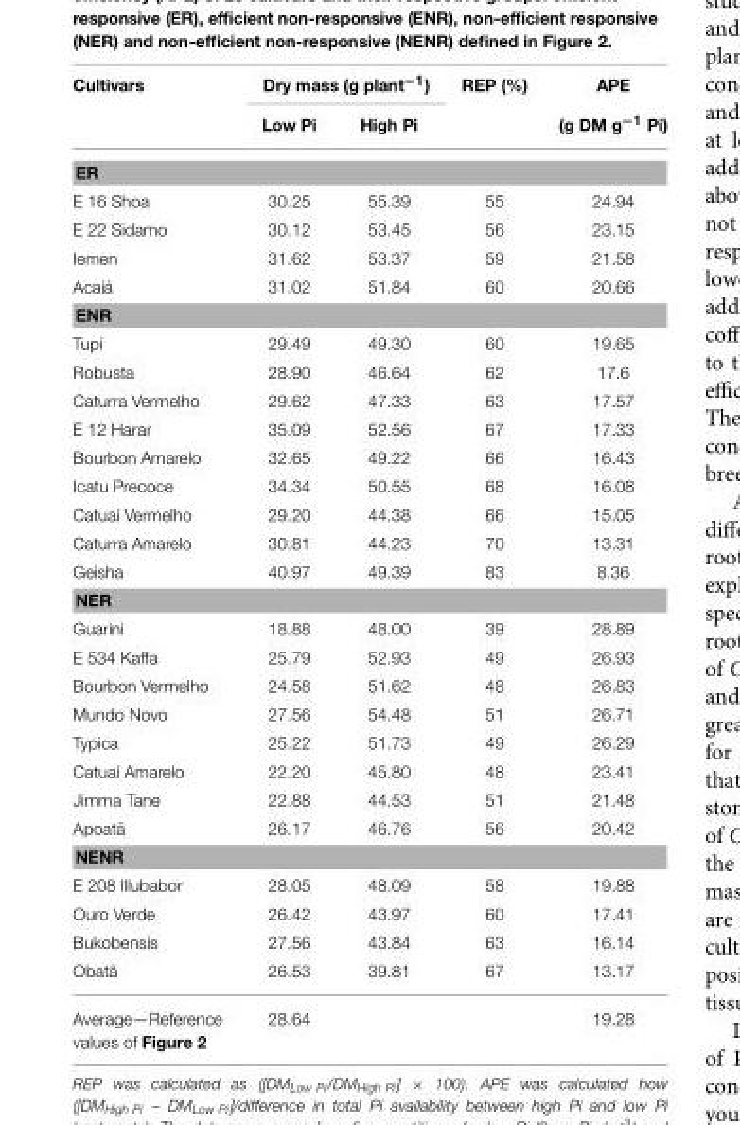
<table><thead><tr><td rowspan="2">Cultivars</td><td colspan="2">Dry mass (g plant<sup>−1</sup>)</td><td rowspan="2">REP (%)</td><td rowspan="2">APE (g DM g<sup>−1</sup> Pi)</td></tr><tr><td>Low Pi</td><td>High Pi</td></tr></thead><tbody><tr><td colspan="5">ER</td></tr><tr><td>E 16 Shoa</td><td>30.25</td><td>55.39</td><td>55</td><td>24.94</td></tr><tr><td>E 22 Sidamo</td><td>30.12</td><td>53.45</td><td>56</td><td>23.15</td></tr><tr><td>Iemen</td><td>31.62</td><td>53.37</td><td>59</td><td>21.58</td></tr><tr><td>Acaiá</td><td>31.02</td><td>51.84</td><td>60</td><td>20.66</td></tr><tr><td colspan="5">ENR</td></tr><tr><td>Tupi</td><td>29.49</td><td>49.30</td><td>60</td><td>19.65</td></tr><tr><td>Robusta</td><td>28.90</td><td>46.64</td><td>62</td><td>17.6</td></tr><tr><td>Caturra Vermelho</td><td>29.62</td><td>47.33</td><td>63</td><td>17.57</td></tr><tr><td>E 12 Harar</td><td>35.09</td><td>52.56</td><td>67</td><td>17.33</td></tr><tr><td>Bourbon Amarelo</td><td>32.65</td><td>49.22</td><td>66</td><td>16.43</td></tr><tr><td>Icatu Precoce</td><td>34.34</td><td>50.55</td><td>68</td><td>16.08</td></tr><tr><td>Catuaí Vermelho</td><td>29.20</td><td>44.38</td><td>66</td><td>15.05</td></tr><tr><td>Caturra Amarelo</td><td>30.81</td><td>44.23</td><td>70</td><td>13.31</td></tr><tr><td>Geisha</td><td>40.97</td><td>49.39</td><td>83</td><td>8.36</td></tr><tr><td colspan="5">NER</td></tr><tr><td>Guarini</td><td>18.88</td><td>48.00</td><td>39</td><td>28.89</td></tr><tr><td>E 534 Kaffa</td><td>25.79</td><td>52.93</td><td>49</td><td>26.93</td></tr><tr><td>Bourbon Vermelho</td><td>24.58</td><td>51.62</td><td>48</td><td>26.83</td></tr><tr><td>Mundo Novo</td><td>27.56</td><td>54.48</td><td>51</td><td>26.71</td></tr><tr><td>Typica</td><td>25.22</td><td>51.73</td><td>49</td><td>26.29</td></tr><tr><td>Catuaí Amarelo</td><td>22.20</td><td>45.80</td><td>48</td><td>23.41</td></tr><tr><td>Jimma Tane</td><td>22.88</td><td>44.53</td><td>51</td><td>21.48</td></tr><tr><td>Apoatã</td><td>26.17</td><td>46.76</td><td>56</td><td>20.42</td></tr><tr><td colspan="5">NENR</td></tr><tr><td>E 208 Illubabor</td><td>28.05</td><td>48.09</td><td>58</td><td>19.88</td></tr><tr><td>Ouro Verde</td><td>26.42</td><td>43.97</td><td>60</td><td>17.41</td></tr><tr><td>Bukobensis</td><td>27.56</td><td>43.84</td><td>63</td><td>16.14</td></tr><tr><td>Obatã</td><td>26.53</td><td>39.81</td><td>67</td><td>13.17</td></tr><tr><td>Average—Reference values of Figure 2</td><td>28.64</td><td></td><td></td><td>19.28</td></tr></tbody></table>